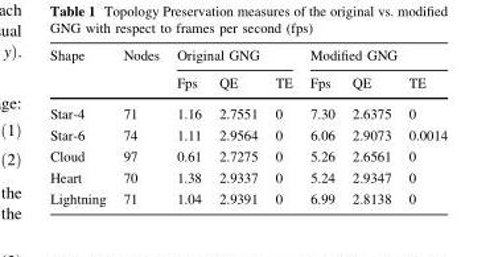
<table><thead><tr><td rowspan="2">Shape</td><td rowspan="2">Nodes</td><td colspan="3">Original GNG</td><td colspan="3">Modified GNG</td></tr><tr><td>Fps</td><td>QE</td><td>TE</td><td>Fps</td><td>QE</td><td>TE</td></tr></thead><tbody><tr><td>Star-4</td><td>71</td><td>1.16</td><td>2.7551</td><td>0</td><td>7.30</td><td>2.6375</td><td>0</td></tr><tr><td>Star-6</td><td>74</td><td>1.11</td><td>2.9564</td><td>0</td><td>6.06</td><td>2.9073</td><td>0.0014</td></tr><tr><td>Cloud</td><td>97</td><td>0.61</td><td>2.7275</td><td>0</td><td>5.26</td><td>2.6561</td><td>0</td></tr><tr><td>Heart</td><td>70</td><td>1.38</td><td>2.9337</td><td>0</td><td>5.24</td><td>2.9347</td><td>0</td></tr><tr><td>Lightning</td><td>71</td><td>1.04</td><td>2.9391</td><td>0</td><td>6.99</td><td>2.8138</td><td>0</td></tr></tbody></table>